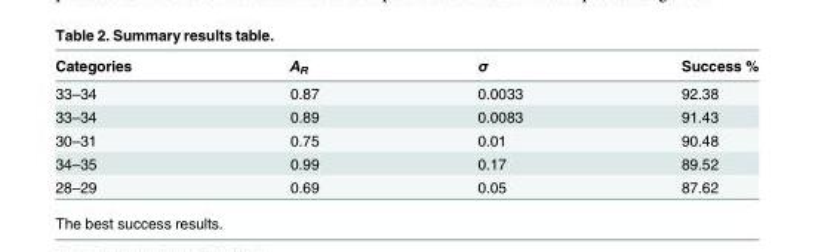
<table><thead><tr><td>Categories</td><td>A<sub>R</sub></td><td>σ</td><td>Success %</td></tr></thead><tbody><tr><td>33–34</td><td>0.87</td><td>0.0033</td><td>92.38</td></tr><tr><td>33–34</td><td>0.89</td><td>0.0083</td><td>91.43</td></tr><tr><td>30–31</td><td>0.75</td><td>0.01</td><td>90.48</td></tr><tr><td>34–35</td><td>0.99</td><td>0.17</td><td>89.52</td></tr><tr><td>28–29</td><td>0.69</td><td>0.05</td><td>87.62</td></tr></tbody></table>